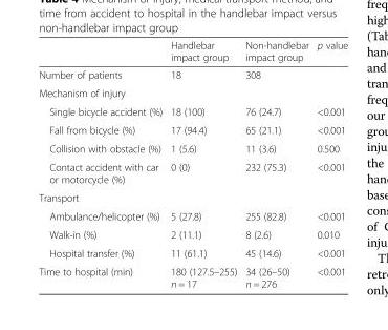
<table><thead><tr><td></td><td>Handlebar impact group</td><td>Non-handlebar impact group</td><td>p value</td></tr></thead><tbody><tr><td>Number of patients</td><td>18</td><td>308</td><td></td></tr><tr><td colspan="4">Mechanism of injury</td></tr><tr><td>Single bicycle accident (%)</td><td>18 (100)</td><td>76 (24.7)</td><td>&lt;0.001</td></tr><tr><td>Fall from bicycle (%)</td><td>17 (94.4)</td><td>65 (21.1)</td><td>&lt;0.001</td></tr><tr><td>Collision with obstacle (%)</td><td>1 (5.6)</td><td>11 (3.6)</td><td>0.500</td></tr><tr><td>Contact accident with car or motorcycle (%)</td><td>0 (0)</td><td>232 (75.3)</td><td>&lt;0.001</td></tr><tr><td colspan="4">Transport</td></tr><tr><td>Ambulance/helicopter (%)</td><td>5 (27.8)</td><td>255 (82.8)</td><td>&lt;0.001</td></tr><tr><td>Walk-in (%)</td><td>2 (11.1)</td><td>8 (2.6)</td><td>0.010</td></tr><tr><td>Hospital transfer (%)</td><td>11 (61.1)</td><td>45 (14.6)</td><td>&lt;0.001</td></tr><tr><td>Time to hospital (min)</td><td>180 (127.5–255) n = 17</td><td>34 (26–50) n = 276</td><td>&lt;0.001</td></tr></tbody></table>